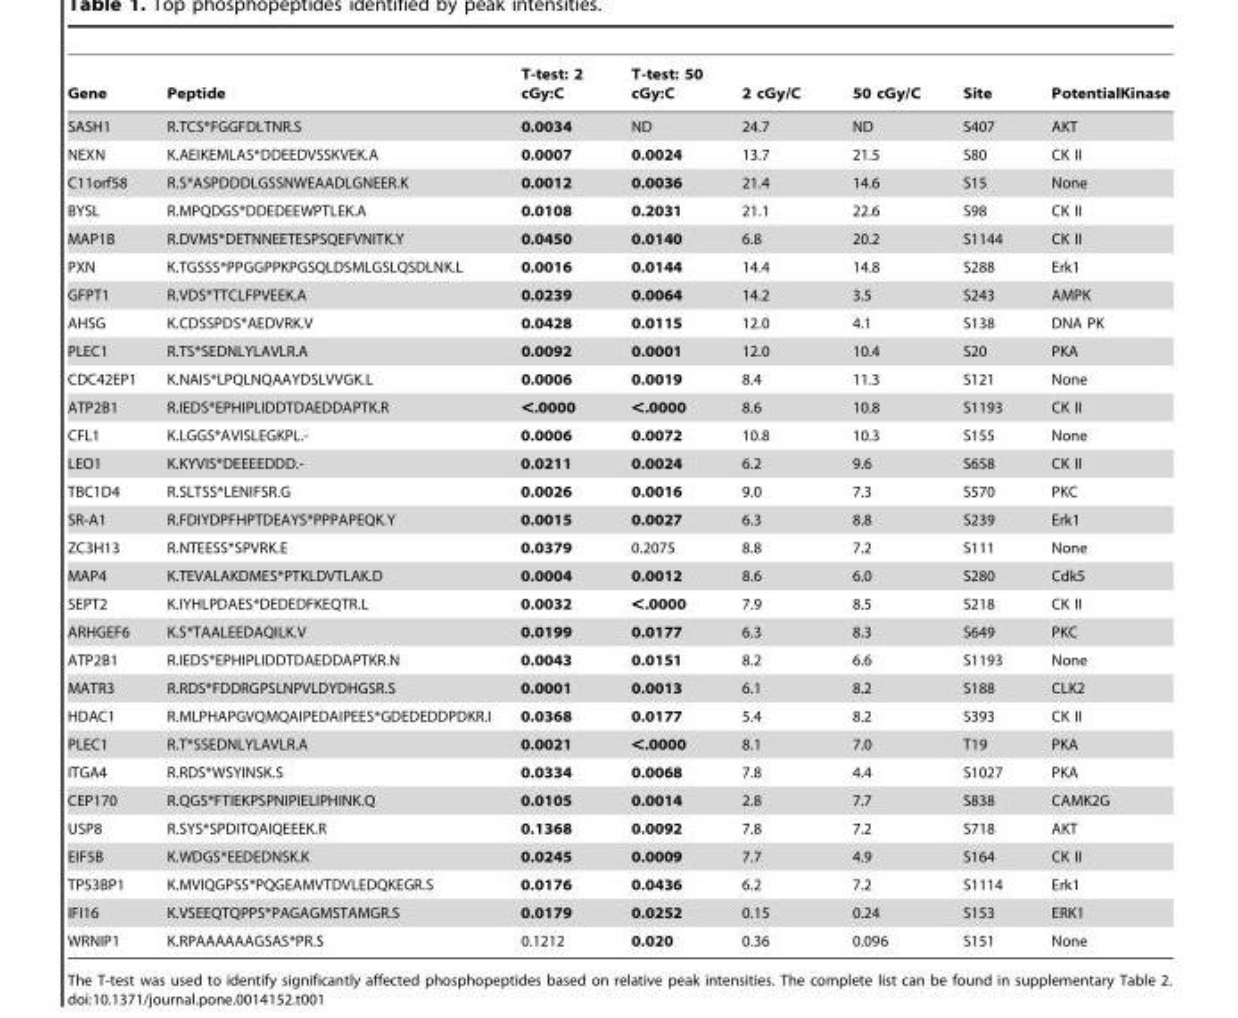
<table><thead><tr><td>Gene</td><td>Peptide</td><td>T-test: 2 cGy:C</td><td>T-test: 50 cGy:C</td><td>2 cGy/C</td><td>50 cGy/C</td><td>Site</td><td>PotentialKinase</td></tr></thead><tbody><tr><td>SASH1</td><td>R.TCS*FGGFDLTNR.S</td><td>0.0034</td><td>ND</td><td>24.7</td><td>ND</td><td>S407</td><td>AKT</td></tr><tr><td>NEXN</td><td>K.AEIKEMLAS*DDEEDVSSKVEK.A</td><td>0.0007</td><td>0.0024</td><td>13.7</td><td>21.5</td><td>S80</td><td>CK II</td></tr><tr><td>C11orf58</td><td>R.S*ASPDDDLGSSNWEAADLGNEER.K</td><td>0.0012</td><td>0.0036</td><td>21.4</td><td>14.6</td><td>S15</td><td>None</td></tr><tr><td>BYSL</td><td>R.MPQDGS*DDEDEEWPTLEK.A</td><td>0.0108</td><td>0.2031</td><td>21.1</td><td>22.6</td><td>S98</td><td>CK II</td></tr><tr><td>MAP1B</td><td>R.DVMS*DETNNEETESPSQEFVNITK.Y</td><td>0.0450</td><td>0.0140</td><td>6.8</td><td>20.2</td><td>S1144</td><td>CK II</td></tr><tr><td>PXN</td><td>K.TGSSS*PPGGPPKPGSQLDSMLGSLQSDLNK.L</td><td>0.0016</td><td>0.0144</td><td>14.4</td><td>14.8</td><td>S288</td><td>Erk1</td></tr><tr><td>GFPT1</td><td>R.VDS*TTCLFPVEEK.A</td><td>0.0239</td><td>0.0064</td><td>14.2</td><td>3.5</td><td>S243</td><td>AMPK</td></tr><tr><td>AHSG</td><td>K.CDSSPDS*AEDVRK.V</td><td>0.0428</td><td>0.0115</td><td>12.0</td><td>4.1</td><td>S138</td><td>DNA PK</td></tr><tr><td>PLEC1</td><td>R.TS*SEDNLYLAVLR.A</td><td>0.0092</td><td>0.0001</td><td>12.0</td><td>10.4</td><td>S20</td><td>PKA</td></tr><tr><td>CDC42EP1</td><td>K.NAIS*LPQLNQAAYDSLVVGK.L</td><td>0.0006</td><td>0.0019</td><td>8.4</td><td>11.3</td><td>S121</td><td>None</td></tr><tr><td>ATP2B1</td><td>R.IEDS*EPHIPLIDDTDAEDDAPTK.R</td><td>&lt;.0000</td><td>&lt;.0000</td><td>8.6</td><td>10.8</td><td>S1193</td><td>CK II</td></tr><tr><td>CFL1</td><td>K.LGGS*AVISLEGKPL.-</td><td>0.0006</td><td>0.0072</td><td>10.8</td><td>10.3</td><td>S155</td><td>None</td></tr><tr><td>LEO1</td><td>K.KYVIS*DEEEEDDD.-</td><td>0.0211</td><td>0.0024</td><td>6.2</td><td>9.6</td><td>S658</td><td>CK II</td></tr><tr><td>TBC1D4</td><td>R.SLTSS*LENIFSR.G</td><td>0.0026</td><td>0.0016</td><td>9.0</td><td>7.3</td><td>S570</td><td>PKC</td></tr><tr><td>SR-A1</td><td>R.FDIYDPFHPTDEAYS*PPPAPEQK.Y</td><td>0.0015</td><td>0.0027</td><td>6.3</td><td>8.8</td><td>S239</td><td>Erk1</td></tr><tr><td>ZC3H13</td><td>R.NTEESS*SPVRK.E</td><td>0.0379</td><td>0.2075</td><td>8.8</td><td>7.2</td><td>S111</td><td>None</td></tr><tr><td>MAP4</td><td>K.TEVALAKDMES*PTKLDVTLAK.D</td><td>0.0004</td><td>0.0012</td><td>8.6</td><td>6.0</td><td>S280</td><td>Cdk5</td></tr><tr><td>SEPT2</td><td>K.IYHLPDAES*DEDEDFKEQTR.L</td><td>0.0032</td><td>&lt;.0000</td><td>7.9</td><td>8.5</td><td>S218</td><td>CK II</td></tr><tr><td>ARHGEF6</td><td>K.S*TAALEEDAQILK.V</td><td>0.0199</td><td>0.0177</td><td>6.3</td><td>8.3</td><td>S649</td><td>PKC</td></tr><tr><td>ATP2B1</td><td>R.IEDS*EPHIPLIDDTDAEDDAPTKR.N</td><td>0.0043</td><td>0.0151</td><td>8.2</td><td>6.6</td><td>S1193</td><td>None</td></tr><tr><td>MATR3</td><td>R.RDS*FDDRGPSLNPVLDYDHGSR.S</td><td>0.0001</td><td>0.0013</td><td>6.1</td><td>8.2</td><td>S188</td><td>CLK2</td></tr><tr><td>HDAC1</td><td>R.MLPHAPGVQMQAIPEDAIPEES*GDEDEDDPDKR.I</td><td>0.0368</td><td>0.0177</td><td>5.4</td><td>8.2</td><td>S393</td><td>CK II</td></tr><tr><td>PLEC1</td><td>R.T*SSEDNLYLAVLR.A</td><td>0.0021</td><td>&lt;.0000</td><td>8.1</td><td>7.0</td><td>T19</td><td>PKA</td></tr><tr><td>ITGA4</td><td>R.RDS*WSYINSK.S</td><td>0.0334</td><td>0.0068</td><td>7.8</td><td>4.4</td><td>S1027</td><td>PKA</td></tr><tr><td>CEP170</td><td>R.QGS*FTIEKPSPNIPIELIPHINK.Q</td><td>0.0105</td><td>0.0014</td><td>2.8</td><td>7.7</td><td>S838</td><td>CAMK2G</td></tr><tr><td>USP8</td><td>R.SYS*SPDITQAIQEEEK.R</td><td>0.1368</td><td>0.0092</td><td>7.8</td><td>7.2</td><td>S718</td><td>AKT</td></tr><tr><td>EIF5B</td><td>K.WDGS*EEDEDNSK.K</td><td>0.0245</td><td>0.0009</td><td>7.7</td><td>4.9</td><td>S164</td><td>CK II</td></tr><tr><td>TP53BP1</td><td>K.MVIQGPSS*PQGEAMVTDVLEDQKEGR.S</td><td>0.0176</td><td>0.0436</td><td>6.2</td><td>7.2</td><td>S1114</td><td>Erk1</td></tr><tr><td>IFI16</td><td>K.VSEEQTQPPS*PAGAGMSTAMGR.S</td><td>0.0179</td><td>0.0252</td><td>0.15</td><td>0.24</td><td>S153</td><td>ERK1</td></tr><tr><td>WRNIP1</td><td>K.RPAAAAAAGSAS*PR.S</td><td>0.1212</td><td>0.020</td><td>0.36</td><td>0.096</td><td>S151</td><td>None</td></tr></tbody></table>